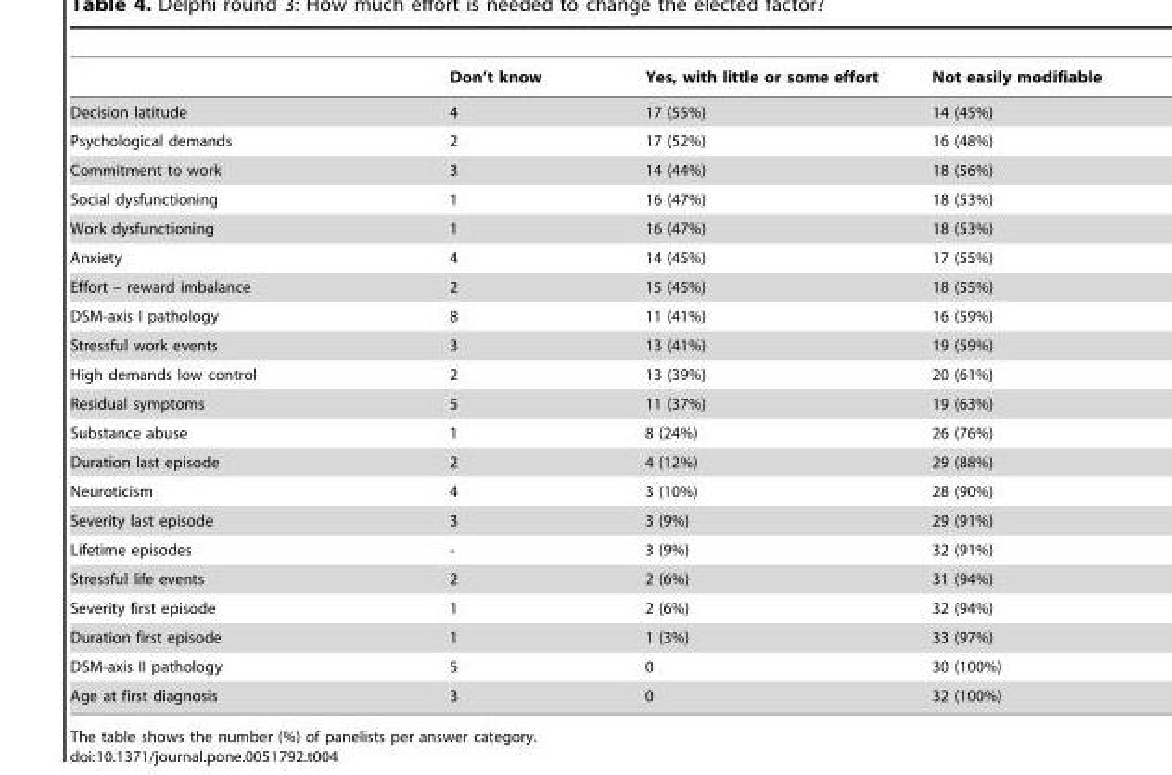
<table><thead><tr><td></td><td>Don’t know</td><td>Yes, with little or some effort</td><td>Not easily modifiable</td></tr></thead><tbody><tr><td>Decision latitude</td><td>4</td><td>17 (55%)</td><td>14 (45%)</td></tr><tr><td>Psychological demands</td><td>2</td><td>17 (52%)</td><td>16 (48%)</td></tr><tr><td>Commitment to work</td><td>3</td><td>14 (44%)</td><td>18 (56%)</td></tr><tr><td>Social dysfunctioning</td><td>1</td><td>16 (47%)</td><td>18 (53%)</td></tr><tr><td>Work dysfunctioning</td><td>1</td><td>16 (47%)</td><td>18 (53%)</td></tr><tr><td>Anxiety</td><td>4</td><td>14 (45%)</td><td>17 (55%)</td></tr><tr><td>Effort – reward imbalance</td><td>2</td><td>15 (45%)</td><td>18 (55%)</td></tr><tr><td>DSM-axis I pathology</td><td>8</td><td>11 (41%)</td><td>16 (59%)</td></tr><tr><td>Stressful work events</td><td>3</td><td>13 (41%)</td><td>19 (59%)</td></tr><tr><td>High demands low control</td><td>2</td><td>13 (39%)</td><td>20 (61%)</td></tr><tr><td>Residual symptoms</td><td>5</td><td>11 (37%)</td><td>19 (63%)</td></tr><tr><td>Substance abuse</td><td>1</td><td>8 (24%)</td><td>26 (76%)</td></tr><tr><td>Duration last episode</td><td>2</td><td>4 (12%)</td><td>29 (88%)</td></tr><tr><td>Neuroticism</td><td>4</td><td>3 (10%)</td><td>28 (90%)</td></tr><tr><td>Severity last episode</td><td>3</td><td>3 (9%)</td><td>29 (91%)</td></tr><tr><td>Lifetime episodes</td><td>-</td><td>3 (9%)</td><td>32 (91%)</td></tr><tr><td>Stressful life events</td><td>2</td><td>2 (6%)</td><td>31 (94%)</td></tr><tr><td>Severity first episode</td><td>1</td><td>2 (6%)</td><td>32 (94%)</td></tr><tr><td>Duration first episode</td><td>1</td><td>1 (3%)</td><td>33 (97%)</td></tr><tr><td>DSM-axis II pathology</td><td>5</td><td>0</td><td>30 (100%)</td></tr><tr><td>Age at first diagnosis</td><td>3</td><td>0</td><td>32 (100%)</td></tr></tbody></table>